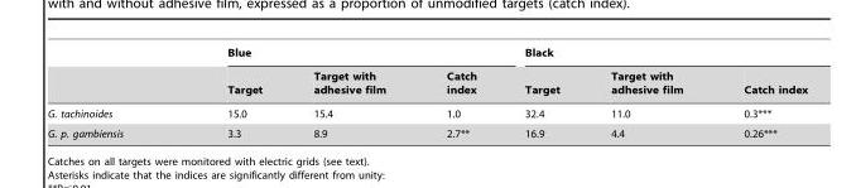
<table><thead><tr><td rowspan="2"></td><td colspan="3">Blue</td><td colspan="3">Black</td></tr><tr><td>Target</td><td>Target with adhesive film</td><td>Catch index</td><td>Target</td><td>Target with adhesive film</td><td>Catch index</td></tr></thead><tbody><tr><td>G. tachinoides</td><td>15.0</td><td>15.4</td><td>1.0</td><td>32.4</td><td>11.0</td><td>0.3***</td></tr><tr><td>G. p. gambiensis</td><td>3.3</td><td>8.9</td><td>2.7**</td><td>16.9</td><td>4.4</td><td>0.26***</td></tr></tbody></table>